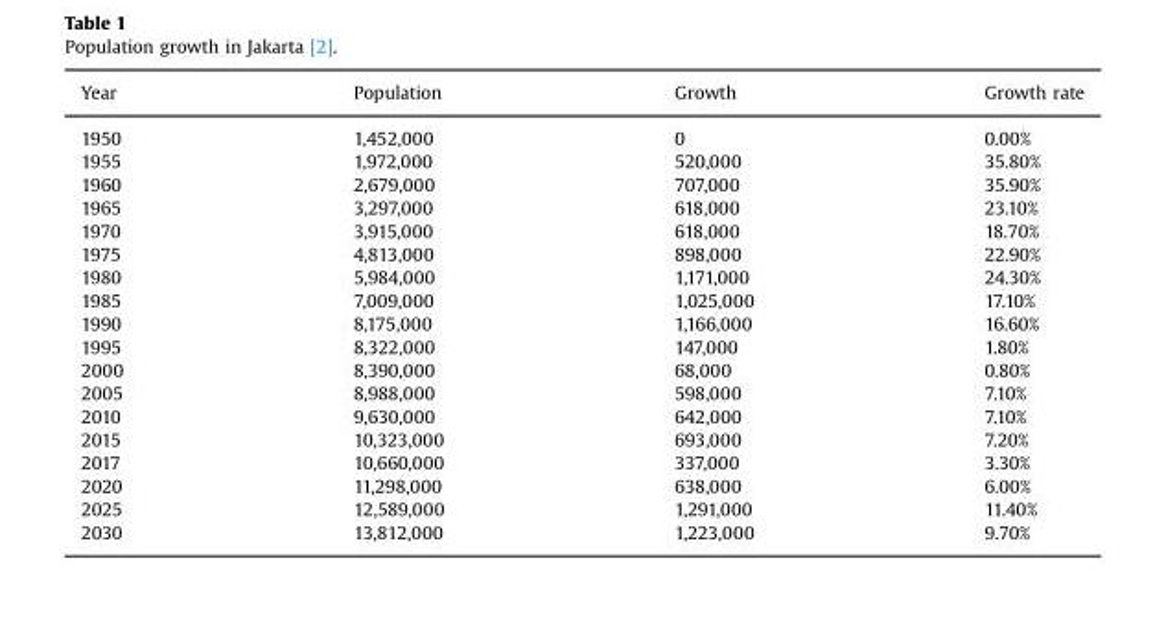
<table><thead><tr><td>Year</td><td>Population</td><td>Growth</td><td>Growth rate</td></tr></thead><tbody><tr><td>1950</td><td>1,452,000</td><td>0</td><td>0.00%</td></tr><tr><td>1955</td><td>1,972,000</td><td>520,000</td><td>35.80%</td></tr><tr><td>1960</td><td>2,679,000</td><td>707,000</td><td>35.90%</td></tr><tr><td>1965</td><td>3,297,000</td><td>618,000</td><td>23.10%</td></tr><tr><td>1970</td><td>3,915,000</td><td>618,000</td><td>18.70%</td></tr><tr><td>1975</td><td>4,813,000</td><td>898,000</td><td>22.90%</td></tr><tr><td>1980</td><td>5,984,000</td><td>1,171,000</td><td>24.30%</td></tr><tr><td>1985</td><td>7,009,000</td><td>1,025,000</td><td>17.10%</td></tr><tr><td>1990</td><td>8,175,000</td><td>1,166,000</td><td>16.60%</td></tr><tr><td>1995</td><td>8,322,000</td><td>147,000</td><td>1.80%</td></tr><tr><td>2000</td><td>8,390,000</td><td>68,000</td><td>0.80%</td></tr><tr><td>2005</td><td>8,988,000</td><td>598,000</td><td>7.10%</td></tr><tr><td>2010</td><td>9,630,000</td><td>642,000</td><td>7.10%</td></tr><tr><td>2015</td><td>10,323,000</td><td>693,000</td><td>7.20%</td></tr><tr><td>2017</td><td>10,660,000</td><td>337,000</td><td>3.30%</td></tr><tr><td>2020</td><td>11,298,000</td><td>638,000</td><td>6.00%</td></tr><tr><td>2025</td><td>12,589,000</td><td>1,291,000</td><td>11.40%</td></tr><tr><td>2030</td><td>13,812,000</td><td>1,223,000</td><td>9.70%</td></tr></tbody></table>